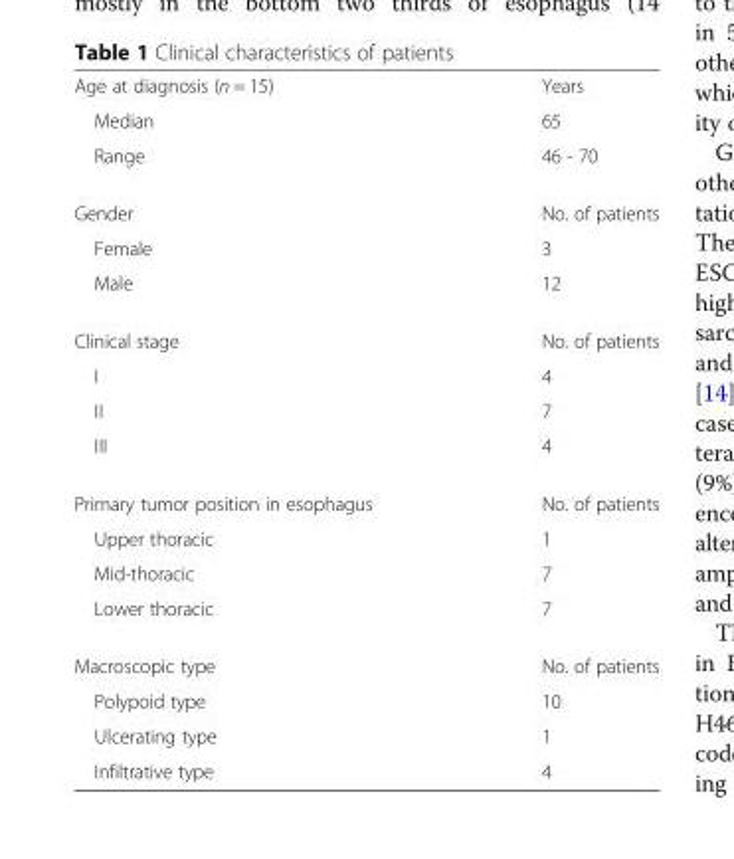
<table><tbody><tr><td>Age at diagnosis (n = 15)</td><td>Years</td></tr><tr><td>Median</td><td>65</td></tr><tr><td>Range</td><td>46 - 70</td></tr><tr><td>Gender</td><td>No. of patients</td></tr><tr><td>Female</td><td>3</td></tr><tr><td>Male</td><td>12</td></tr><tr><td>Clinical stage</td><td>No. of patients</td></tr><tr><td>I</td><td>4</td></tr><tr><td>II</td><td>7</td></tr><tr><td>III</td><td>4</td></tr><tr><td>Primary tumor position in esophagus</td><td>No. of patients</td></tr><tr><td>Upper thoracic</td><td>1</td></tr><tr><td>Mid-thoracic</td><td>7</td></tr><tr><td>Lower thoracic</td><td>7</td></tr><tr><td>Macroscopic type</td><td>No. of patients</td></tr><tr><td>Polypoid type</td><td>10</td></tr><tr><td>Ulcerating type</td><td>1</td></tr><tr><td>Infiltrative type</td><td>4</td></tr></tbody></table>